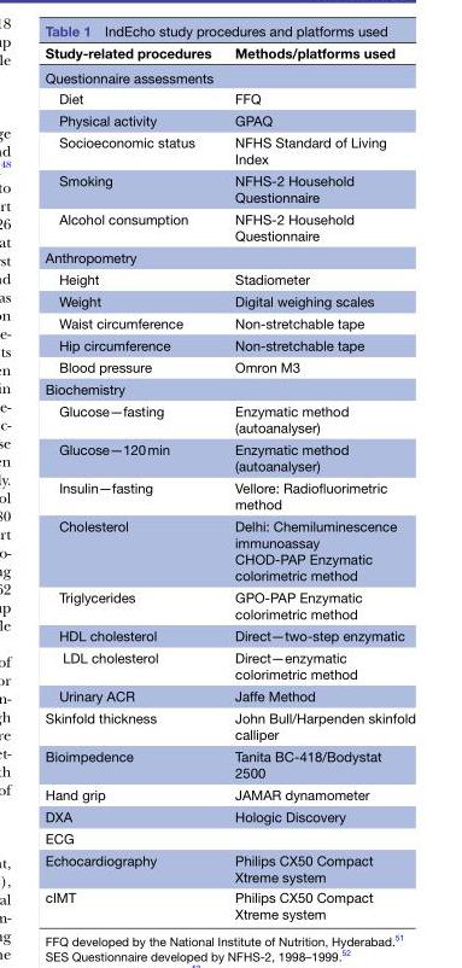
<table><thead><tr><td>Study-related procedures</td><td>Methods/platforms used</td></tr></thead><tbody><tr><td colspan="2">Questionnaire assessments</td></tr><tr><td>Diet</td><td>FFQ</td></tr><tr><td>Physical activity</td><td>GPAQ</td></tr><tr><td>Socioeconomic status</td><td>NFHS Standard of Living Index</td></tr><tr><td>Smoking</td><td>NFHS-2 Household Questionnaire</td></tr><tr><td>Alcohol consumption</td><td>NFHS-2 Household Questionnaire</td></tr><tr><td colspan="2">Anthropometry</td></tr><tr><td>Height</td><td>Stadiometer</td></tr><tr><td>Weight</td><td>Digital weighing scales</td></tr><tr><td>Waist circumference</td><td>Non-stretchable tape</td></tr><tr><td>Hip circumference</td><td>Non-stretchable tape</td></tr><tr><td>Blood pressure</td><td>Omron M3</td></tr><tr><td colspan="2">Biochemistry</td></tr><tr><td>Glucose—fasting</td><td>Enzymatic method (autoanalyser)</td></tr><tr><td>Glucose—120 min</td><td>Enzymatic method (autoanalyser)</td></tr><tr><td>Insulin—fasting</td><td>Vellore: Radiofluorimetric method</td></tr><tr><td>Cholesterol</td><td>Delhi: Chemiluminescence immunoassay CHOD-PAP Enzymatic colorimetric method</td></tr><tr><td>Triglycerides</td><td>GPO-PAP Enzymatic colorimetric method</td></tr><tr><td>HDL cholesterol</td><td>Direct—two-step enzymatic</td></tr><tr><td>LDL cholesterol</td><td>Direct—enzymatic colorimetric method</td></tr><tr><td>Urinary ACR</td><td>Jaffe Method</td></tr><tr><td>Skinfold thickness</td><td>John Bull/Harpenden skinfold calliper</td></tr><tr><td>Bioimpedence</td><td>Tanita BC-418/Bodystat 2500</td></tr><tr><td>Hand grip</td><td>JAMAR dynamometer</td></tr><tr><td>DXA</td><td>Hologic Discovery</td></tr><tr><td colspan="2">ECG</td></tr><tr><td>Echocardiography</td><td>Philips CX50 Compact Xtreme system</td></tr><tr><td>cIMT</td><td>Philips CX50 Compact Xtreme system</td></tr></tbody></table>